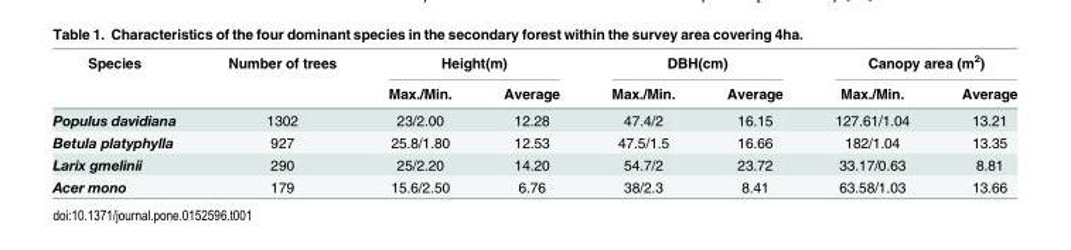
<table><thead><tr><td rowspan="2">Species</td><td rowspan="2">Number of trees</td><td colspan="2">Height(m)</td><td colspan="2">DBH(cm)</td><td colspan="2">Canopy area (m<sup>2</sup>)</td></tr><tr><td>Max./Min.</td><td>Average</td><td>Max./Min.</td><td>Average</td><td>Max./Min.</td><td>Average</td></tr></thead><tbody><tr><td>Populus davidiana</td><td>1302</td><td>23/2.00</td><td>12.28</td><td>47.4/2</td><td>16.15</td><td>127.61/1.04</td><td>13.21</td></tr><tr><td>Betula platyphylla</td><td>927</td><td>25.8/1.80</td><td>12.53</td><td>47.5/1.5</td><td>16.66</td><td>182/1.04</td><td>13.35</td></tr><tr><td>Larix gmelinii</td><td>290</td><td>25/2.20</td><td>14.20</td><td>54.7/2</td><td>23.72</td><td>33.17/0.63</td><td>8.81</td></tr><tr><td>Acer mono</td><td>179</td><td>15.6/2.50</td><td>6.76</td><td>38/2.3</td><td>8.41</td><td>63.58/1.03</td><td>13.66</td></tr></tbody></table>